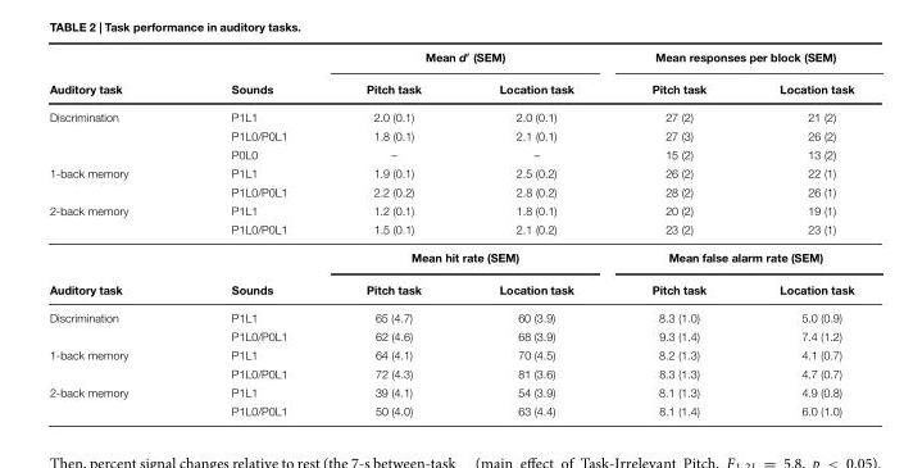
<table><thead><tr><td rowspan="2">Auditory task</td><td rowspan="2">Sounds</td><td colspan="2">Mean d′ (SEM)</td><td colspan="2">Mean responses per block (SEM)</td></tr><tr><td>Pitch task</td><td>Location task</td><td>Pitch task</td><td>Location task</td></tr></thead><tbody><tr><td rowspan="3">Discrimination</td><td>P1L1</td><td>2.0 (0.1)</td><td>2.0 (0.1)</td><td>27 (2)</td><td>21 (2)</td></tr><tr><td>P1L0/P0L1</td><td>1.8 (0.1)</td><td>2.1 (0.1)</td><td>27 (3)</td><td>26 (2)</td></tr><tr><td>P0L0</td><td>–</td><td>–</td><td>15 (2)</td><td>13 (2)</td></tr><tr><td rowspan="2">1-back memory</td><td>P1L1</td><td>1.9 (0.1)</td><td>2.5 (0.2)</td><td>26 (2)</td><td>22 (1)</td></tr><tr><td>P1L0/P0L1</td><td>2.2 (0.2)</td><td>2.8 (0.2)</td><td>28 (2)</td><td>26 (1)</td></tr><tr><td rowspan="3">2-back memory</td><td>P1L1</td><td>1.2 (0.1)</td><td>1.8 (0.1)</td><td>20 (2)</td><td>19 (1)</td></tr><tr><td>P1L0/P0L1</td><td>1.5 (0.1)</td><td>2.1 (0.2)</td><td>23 (2)</td><td>23 (1)</td></tr><tr><td></td><td colspan="2">Mean hit rate (SEM)</td><td colspan="2">Mean false alarm rate (SEM)</td></tr><tr><td>Auditory task</td><td>Sounds</td><td>Pitch task</td><td>Location task</td><td>Pitch task</td><td>Location task</td></tr><tr><td rowspan="2">Discrimination</td><td>P1L1</td><td>65 (4.7)</td><td>60 (3.9)</td><td>8.3 (1.0)</td><td>5.0 (0.9)</td></tr><tr><td>P1L0/P0L1</td><td>62 (4.6)</td><td>68 (3.9)</td><td>9.3 (1.4)</td><td>7.4 (1.2)</td></tr><tr><td rowspan="2">1-back memory</td><td>P1L1</td><td>64 (4.1)</td><td>70 (4.5)</td><td>8.2 (1.3)</td><td>4.1 (0.7)</td></tr><tr><td>P1L0/P0L1</td><td>72 (4.3)</td><td>81 (3.6)</td><td>8.3 (1.3)</td><td>4.7 (0.7)</td></tr><tr><td rowspan="2">2-back memory</td><td>P1L1</td><td>39 (4.1)</td><td>54 (3.9)</td><td>8.1 (1.3)</td><td>4.9 (0.8)</td></tr><tr><td>P1L0/P0L1</td><td>50 (4.0)</td><td>63 (4.4)</td><td>8.1 (1.4)</td><td>6.0 (1.0)</td></tr></tbody></table>